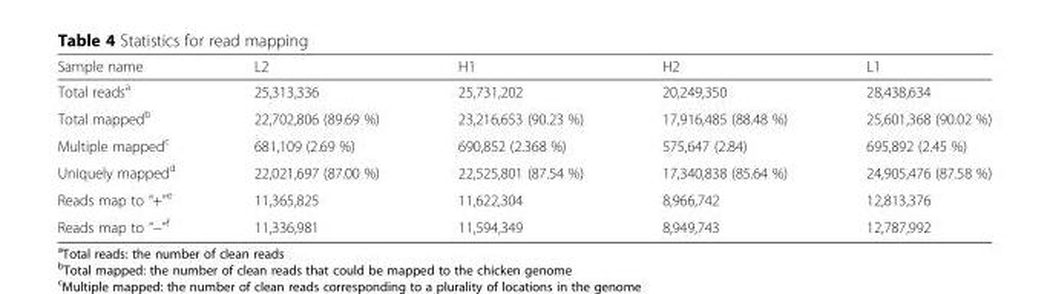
<table><thead><tr><td>Sample name</td><td>L2</td><td>H1</td><td>H2</td><td>L1</td></tr></thead><tbody><tr><td>Total reads<sup>a</sup></td><td>25,313,336</td><td>25,731,202</td><td>20,249,350</td><td>28,438,634</td></tr><tr><td>Total mapped<sup>b</sup></td><td>22,702,806 (89.69 %)</td><td>23,216,653 (90.23 %)</td><td>17,916,485 (88.48 %)</td><td>25,601,368 (90.02 %)</td></tr><tr><td>Multiple mapped<sup>c</sup></td><td>681,109 (2.69 %)</td><td>690,852 (2.368 %)</td><td>575,647 (2.84)</td><td>695,892 (2.45 %)</td></tr><tr><td>Uniquely mapped<sup>d</sup></td><td>22,021,697 (87.00 %)</td><td>22,525,801 (87.54 %)</td><td>17,340,838 (85.64 %)</td><td>24,905,476 (87.58 %)</td></tr><tr><td>Reads map to “+”<sup>e</sup></td><td>11,365,825</td><td>11,622,304</td><td>8,966,742</td><td>12,813,376</td></tr><tr><td>Reads map to “−”<sup>f</sup></td><td>11,336,981</td><td>11,594,349</td><td>8,949,743</td><td>12,787,992</td></tr></tbody></table>